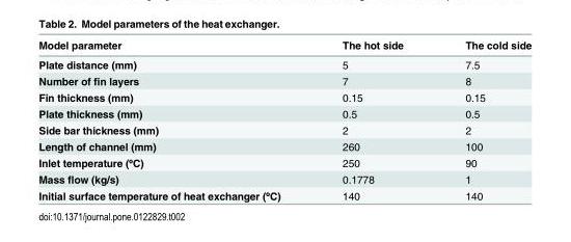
<table><thead><tr><td>Model parameter</td><td>The hot side</td><td>The cold side</td></tr></thead><tbody><tr><td>Plate distance (mm)</td><td>5</td><td>7.5</td></tr><tr><td>Number of fin layers</td><td>7</td><td>8</td></tr><tr><td>Fin thickness (mm)</td><td>0.15</td><td>0.15</td></tr><tr><td>Plate thickness (mm)</td><td>0.5</td><td>0.5</td></tr><tr><td>Side bar thickness (mm)</td><td>2</td><td>2</td></tr><tr><td>Length of channel (mm)</td><td>260</td><td>100</td></tr><tr><td>Inlet temperature (ºC)</td><td>250</td><td>90</td></tr><tr><td>Mass flow (kg/s)</td><td>0.1778</td><td>1</td></tr><tr><td>Initial surface temperature of heat exchanger (ºC)</td><td>140</td><td>140</td></tr></tbody></table>